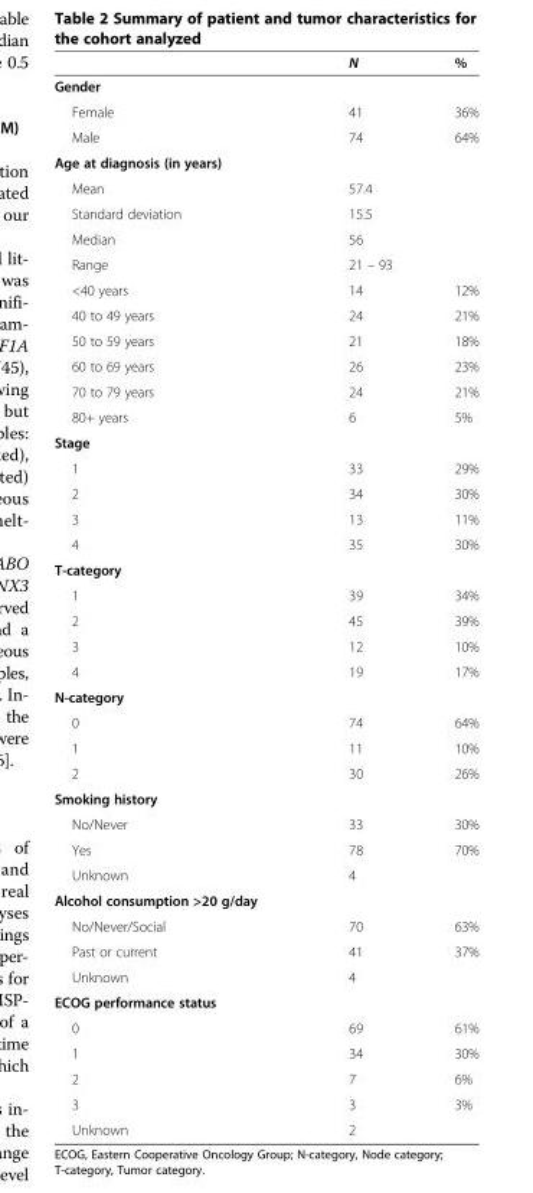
<table><thead><tr><td></td><td>N</td><td>%</td></tr></thead><tbody><tr><td colspan="3">Gender</td></tr><tr><td>Female</td><td>41</td><td>36%</td></tr><tr><td>Male</td><td>74</td><td>64%</td></tr><tr><td colspan="3">Age at diagnosis (in years)</td></tr><tr><td>Mean</td><td colspan="2">57.4</td></tr><tr><td>Standard deviation</td><td colspan="2">15.5</td></tr><tr><td>Median</td><td colspan="2">56</td></tr><tr><td>Range</td><td colspan="2">21 – 93</td></tr><tr><td>&lt;40 years</td><td>14</td><td>12%</td></tr><tr><td>40 to 49 years</td><td>24</td><td>21%</td></tr><tr><td>50 to 59 years</td><td>21</td><td>18%</td></tr><tr><td>60 to 69 years</td><td>26</td><td>23%</td></tr><tr><td>70 to 79 years</td><td>24</td><td>21%</td></tr><tr><td>80+ years</td><td>6</td><td>5%</td></tr><tr><td colspan="3">Stage</td></tr><tr><td>1</td><td>33</td><td>29%</td></tr><tr><td>2</td><td>34</td><td>30%</td></tr><tr><td>3</td><td>13</td><td>11%</td></tr><tr><td>4</td><td>35</td><td>30%</td></tr><tr><td colspan="3">T-category</td></tr><tr><td>1</td><td>39</td><td>34%</td></tr><tr><td>2</td><td>45</td><td>39%</td></tr><tr><td>3</td><td>12</td><td>10%</td></tr><tr><td>4</td><td>19</td><td>17%</td></tr><tr><td colspan="3">N-category</td></tr><tr><td>0</td><td>74</td><td>64%</td></tr><tr><td>1</td><td>11</td><td>10%</td></tr><tr><td>2</td><td>30</td><td>26%</td></tr><tr><td colspan="3">Smoking history</td></tr><tr><td>No/Never</td><td>33</td><td>30%</td></tr><tr><td>Yes</td><td>78</td><td>70%</td></tr><tr><td>Unknown</td><td>4</td><td></td></tr><tr><td colspan="3">Alcohol consumption &gt;20 g/day</td></tr><tr><td>No/Never/Social</td><td>70</td><td>63%</td></tr><tr><td>Past or current</td><td>41</td><td>37%</td></tr><tr><td>Unknown</td><td>4</td><td></td></tr><tr><td colspan="3">ECOG performance status</td></tr><tr><td>0</td><td>69</td><td>61%</td></tr><tr><td>1</td><td>34</td><td>30%</td></tr><tr><td>2</td><td>7</td><td>6%</td></tr><tr><td>3</td><td>3</td><td>3%</td></tr><tr><td>Unknown</td><td>2</td><td></td></tr></tbody></table>